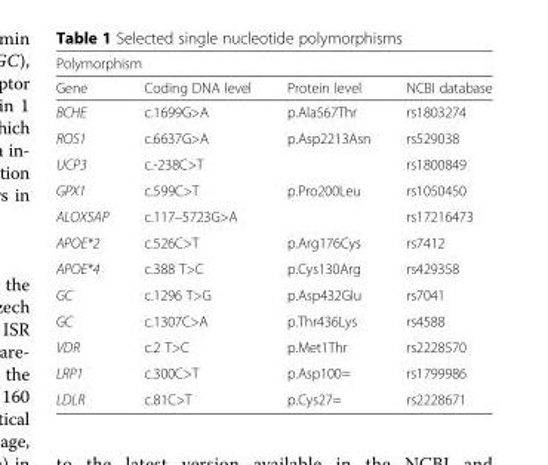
<table><thead><tr><td colspan="4">Polymorphism</td></tr><tr><td>Gene</td><td>Coding DNA level</td><td>Protein level</td><td>NCBI database</td></tr></thead><tbody><tr><td>BCHE</td><td>c.1699G&gt;A</td><td>p.Ala567Thr</td><td>rs1803274</td></tr><tr><td>ROS1</td><td>c.6637G&gt;A</td><td>p.Asp2213Asn</td><td>rs529038</td></tr><tr><td>UCP3</td><td>c.-238C&gt;T</td><td></td><td>rs1800849</td></tr><tr><td>GPX1</td><td>c.599C&gt;T</td><td>p.Pro200Leu</td><td>rs1050450</td></tr><tr><td>ALOX5AP</td><td>c.117–5723G&gt;A</td><td></td><td>rs17216473</td></tr><tr><td>APOE*2</td><td>c.526C&gt;T</td><td>p.Arg176Cys</td><td>rs7412</td></tr><tr><td>APOE*4</td><td>c.388 T&gt;C</td><td>p.Cys130Arg</td><td>rs429358</td></tr><tr><td>GC</td><td>c.1296 T&gt;G</td><td>p.Asp432Glu</td><td>rs7041</td></tr><tr><td>GC</td><td>c.1307C&gt;A</td><td>p.Thr436Lys</td><td>rs4588</td></tr><tr><td>VDR</td><td>c.2 T&gt;C</td><td>p.Met1Thr</td><td>rs2228570</td></tr><tr><td>LRP1</td><td>c.300C&gt;T</td><td>p.Asp100=</td><td>rs1799986</td></tr><tr><td>LDLR</td><td>c.81C&gt;T</td><td>p.Cys27=</td><td>rs2228671</td></tr></tbody></table>